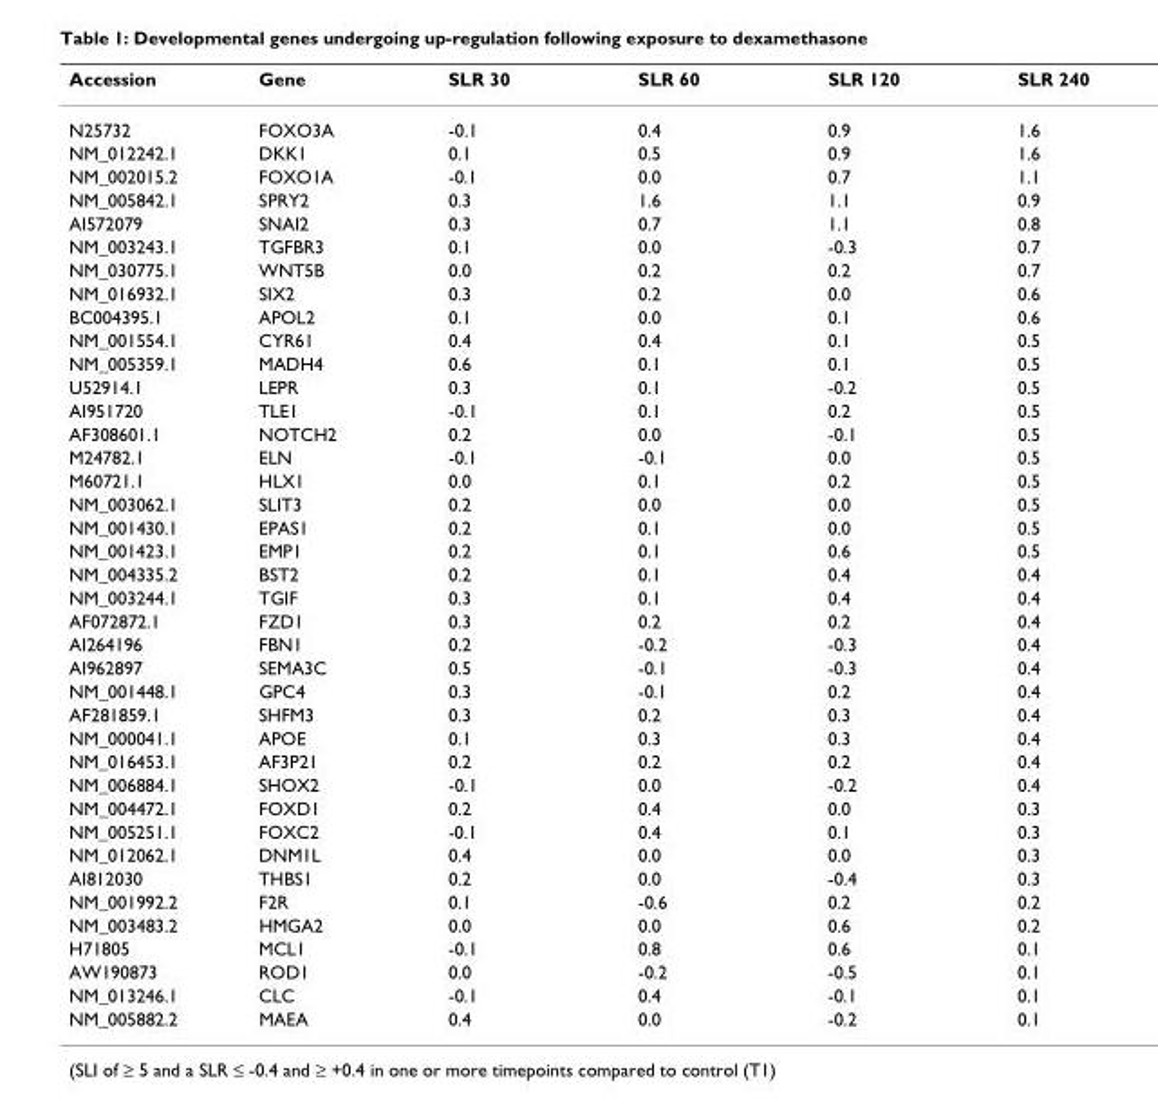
<table><thead><tr><td>Accession</td><td>Gene</td><td>SLR 30</td><td>SLR 60</td><td>SLR 120</td><td>SLR 240</td></tr></thead><tbody><tr><td>N25732</td><td>FOXO3A</td><td>-0.1</td><td>0.4</td><td>0.9</td><td>1.6</td></tr><tr><td>NM_012242.1</td><td>DKK1</td><td>0.1</td><td>0.5</td><td>0.9</td><td>1.6</td></tr><tr><td>NM_002015.2</td><td>FOXO1A</td><td>-0.1</td><td>0.0</td><td>0.7</td><td>1.1</td></tr><tr><td>NM_005842.1</td><td>SPRY2</td><td>0.3</td><td>1.6</td><td>1.1</td><td>0.9</td></tr><tr><td>AI572079</td><td>SNAI2</td><td>0.3</td><td>0.7</td><td>1.1</td><td>0.8</td></tr><tr><td>NM_003243.1</td><td>TGFBR3</td><td>0.1</td><td>0.0</td><td>-0.3</td><td>0.7</td></tr><tr><td>NM_030775.1</td><td>WNT5B</td><td>0.0</td><td>0.2</td><td>0.2</td><td>0.7</td></tr><tr><td>NM_016932.1</td><td>SIX2</td><td>0.3</td><td>0.2</td><td>0.0</td><td>0.6</td></tr><tr><td>BC004395.1</td><td>APOL2</td><td>0.1</td><td>0.0</td><td>0.1</td><td>0.6</td></tr><tr><td>NM_001554.1</td><td>CYR61</td><td>0.4</td><td>0.4</td><td>0.1</td><td>0.5</td></tr><tr><td>NM_005359.1</td><td>MADH4</td><td>0.6</td><td>0.1</td><td>0.1</td><td>0.5</td></tr><tr><td>U52914.1</td><td>LEPR</td><td>0.3</td><td>0.1</td><td>-0.2</td><td>0.5</td></tr><tr><td>AI951720</td><td>TLE1</td><td>-0.1</td><td>0.1</td><td>0.2</td><td>0.5</td></tr><tr><td>AF308601.1</td><td>NOTCH2</td><td>0.2</td><td>0.0</td><td>-0.1</td><td>0.5</td></tr><tr><td>M24782.1</td><td>ELN</td><td>-0.1</td><td>-0.1</td><td>0.0</td><td>0.5</td></tr><tr><td>M60721.1</td><td>HLX1</td><td>0.0</td><td>0.1</td><td>0.2</td><td>0.5</td></tr><tr><td>NM_003062.1</td><td>SLIT3</td><td>0.2</td><td>0.0</td><td>0.0</td><td>0.5</td></tr><tr><td>NM_001430.1</td><td>EPAS1</td><td>0.2</td><td>0.1</td><td>0.0</td><td>0.5</td></tr><tr><td>NM_001423.1</td><td>EMP1</td><td>0.2</td><td>0.1</td><td>0.6</td><td>0.5</td></tr><tr><td>NM_004335.2</td><td>BST2</td><td>0.2</td><td>0.1</td><td>0.4</td><td>0.4</td></tr><tr><td>NM_003244.1</td><td>TGIF</td><td>0.3</td><td>0.1</td><td>0.4</td><td>0.4</td></tr><tr><td>AF072872.1</td><td>FZD1</td><td>0.3</td><td>0.2</td><td>0.2</td><td>0.4</td></tr><tr><td>AI264196</td><td>FBN1</td><td>0.2</td><td>-0.2</td><td>-0.3</td><td>0.4</td></tr><tr><td>AI962897</td><td>SEMA3C</td><td>0.5</td><td>-0.1</td><td>-0.3</td><td>0.4</td></tr><tr><td>NM_001448.1</td><td>GPC4</td><td>0.3</td><td>-0.1</td><td>0.2</td><td>0.4</td></tr><tr><td>AF281859.1</td><td>SHFM3</td><td>0.3</td><td>0.2</td><td>0.3</td><td>0.4</td></tr><tr><td>NM_000041.1</td><td>APOE</td><td>0.1</td><td>0.3</td><td>0.3</td><td>0.4</td></tr><tr><td>NM_016453.1</td><td>AF3P21</td><td>0.2</td><td>0.2</td><td>0.2</td><td>0.4</td></tr><tr><td>NM_006884.1</td><td>SHOX2</td><td>-0.1</td><td>0.0</td><td>-0.2</td><td>0.4</td></tr><tr><td>NM_004472.1</td><td>FOXD1</td><td>0.2</td><td>0.4</td><td>0.0</td><td>0.3</td></tr><tr><td>NM_005251.1</td><td>FOXC2</td><td>-0.1</td><td>0.4</td><td>0.1</td><td>0.3</td></tr><tr><td>NM_012062.1</td><td>DNM1L</td><td>0.4</td><td>0.0</td><td>0.0</td><td>0.3</td></tr><tr><td>AI812030</td><td>THBS1</td><td>0.2</td><td>0.0</td><td>-0.4</td><td>0.3</td></tr><tr><td>NM_001992.2</td><td>F2R</td><td>0.1</td><td>-0.6</td><td>0.2</td><td>0.2</td></tr><tr><td>NM_003483.2</td><td>HMGA2</td><td>0.0</td><td>0.0</td><td>0.6</td><td>0.2</td></tr><tr><td>H71805</td><td>MCL1</td><td>-0.1</td><td>0.8</td><td>0.6</td><td>0.1</td></tr><tr><td>AW190873</td><td>ROD1</td><td>0.0</td><td>-0.2</td><td>-0.5</td><td>0.1</td></tr><tr><td>NM_013246.1</td><td>CLC</td><td>-0.1</td><td>0.4</td><td>-0.1</td><td>0.1</td></tr><tr><td>NM_005882.2</td><td>MAEA</td><td>0.4</td><td>0.0</td><td>-0.2</td><td>0.1</td></tr></tbody></table>